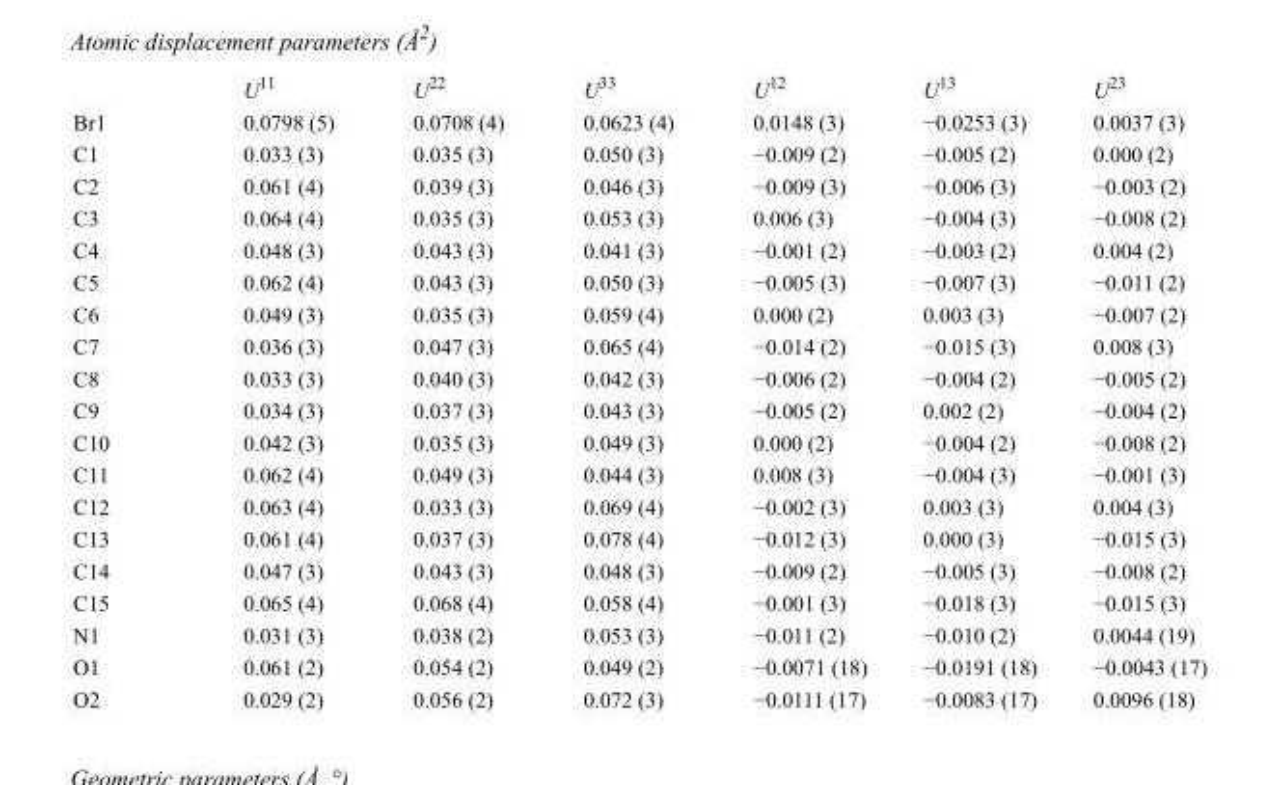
<table><thead><tr><td></td><td>U<sup>11</sup></td><td>U<sup>22</sup></td><td>U<sup>33</sup></td><td>U<sup>12</sup></td><td>U<sup>13</sup></td><td>U<sup>23</sup></td></tr></thead><tbody><tr><td>Br1</td><td>0.0798 (5)</td><td>0.0708 (4)</td><td>0.0623 (4)</td><td>0.0148 (3)</td><td>−0.0253 (3)</td><td>0.0037 (3)</td></tr><tr><td>C1</td><td>0.033 (3)</td><td>0.035 (3)</td><td>0.050 (3)</td><td>−0.009 (2)</td><td>−0.005 (2)</td><td>0.000 (2)</td></tr><tr><td>C2</td><td>0.061 (4)</td><td>0.039 (3)</td><td>0.046 (3)</td><td>−0.009 (3)</td><td>−0.006 (3)</td><td>−0.003 (2)</td></tr><tr><td>C3</td><td>0.064 (4)</td><td>0.035 (3)</td><td>0.053 (3)</td><td>0.006 (3)</td><td>−0.004 (3)</td><td>−0.008 (2)</td></tr><tr><td>C4</td><td>0.048 (3)</td><td>0.043 (3)</td><td>0.041 (3)</td><td>−0.001 (2)</td><td>−0.003 (2)</td><td>0.004 (2)</td></tr><tr><td>C5</td><td>0.062 (4)</td><td>0.043 (3)</td><td>0.050 (3)</td><td>−0.005 (3)</td><td>−0.007 (3)</td><td>−0.011 (2)</td></tr><tr><td>C6</td><td>0.049 (3)</td><td>0.035 (3)</td><td>0.059 (4)</td><td>0.000 (2)</td><td>0.003 (3)</td><td>−0.007 (2)</td></tr><tr><td>C7</td><td>0.036 (3)</td><td>0.047 (3)</td><td>0.065 (4)</td><td>−0.014 (2)</td><td>−0.015 (3)</td><td>0.008 (3)</td></tr><tr><td>C8</td><td>0.033 (3)</td><td>0.040 (3)</td><td>0.042 (3)</td><td>−0.006 (2)</td><td>−0.004 (2)</td><td>−0.005 (2)</td></tr><tr><td>C9</td><td>0.034 (3)</td><td>0.037 (3)</td><td>0.043 (3)</td><td>−0.005 (2)</td><td>0.002 (2)</td><td>−0.004 (2)</td></tr><tr><td>C10</td><td>0.042 (3)</td><td>0.035 (3)</td><td>0.049 (3)</td><td>0.000 (2)</td><td>−0.004 (2)</td><td>−0.008 (2)</td></tr><tr><td>C11</td><td>0.062 (4)</td><td>0.049 (3)</td><td>0.044 (3)</td><td>0.008 (3)</td><td>−0.004 (3)</td><td>−0.001 (3)</td></tr><tr><td>C12</td><td>0.063 (4)</td><td>0.033 (3)</td><td>0.069 (4)</td><td>−0.002 (3)</td><td>0.003 (3)</td><td>0.004 (3)</td></tr><tr><td>C13</td><td>0.061 (4)</td><td>0.037 (3)</td><td>0.078 (4)</td><td>−0.012 (3)</td><td>0.000 (3)</td><td>−0.015 (3)</td></tr><tr><td>C14</td><td>0.047 (3)</td><td>0.043 (3)</td><td>0.048 (3)</td><td>−0.009 (2)</td><td>−0.005 (3)</td><td>−0.008 (2)</td></tr><tr><td>C15</td><td>0.065 (4)</td><td>0.068 (4)</td><td>0.058 (4)</td><td>−0.001 (3)</td><td>−0.018 (3)</td><td>−0.015 (3)</td></tr><tr><td>N1</td><td>0.031 (3)</td><td>0.038 (2)</td><td>0.053 (3)</td><td>−0.011 (2)</td><td>−0.010 (2)</td><td>0.0044 (19)</td></tr><tr><td>O1</td><td>0.061 (2)</td><td>0.054 (2)</td><td>0.049 (2)</td><td>−0.0071 (18)</td><td>−0.0191 (18)</td><td>−0.0043 (17)</td></tr><tr><td>O2</td><td>0.029 (2)</td><td>0.056 (2)</td><td>0.072 (3)</td><td>−0.0111 (17)</td><td>−0.0083 (17)</td><td>0.0096 (18)</td></tr></tbody></table>